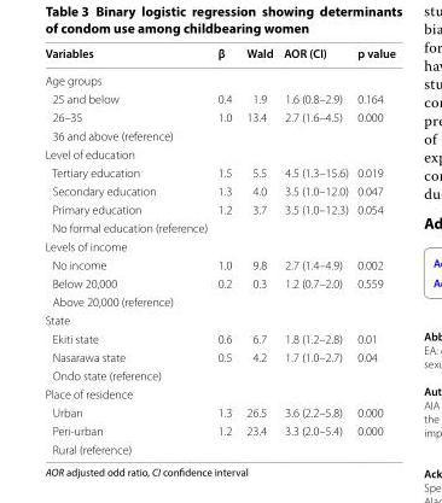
<table><thead><tr><td>Variables</td><td>β</td><td>Wald</td><td>AOR (CI)</td><td>p value</td></tr></thead><tbody><tr><td colspan="5">Age groups</td></tr><tr><td>25 and below</td><td>0.4</td><td>1.9</td><td>1.6 (0.8–2.9)</td><td>0.164</td></tr><tr><td>26–35</td><td>1.0</td><td>13.4</td><td>2.7 (1.6–4.5)</td><td>0.000</td></tr><tr><td colspan="5">36 and above (reference)</td></tr><tr><td colspan="5">Level of education</td></tr><tr><td>Tertiary education</td><td>1.5</td><td>5.5</td><td>4.5 (1.3–15.6)</td><td>0.019</td></tr><tr><td>Secondary education</td><td>1.3</td><td>4.0</td><td>3.5 (1.0–12.0)</td><td>0.047</td></tr><tr><td>Primary education</td><td>1.2</td><td>3.7</td><td>3.5 (1.0–12.3)</td><td>0.054</td></tr><tr><td colspan="5">No formal education (reference)</td></tr><tr><td colspan="5">Levels of income</td></tr><tr><td>No income</td><td>1.0</td><td>9.8</td><td>2.7 (1.4–4.9)</td><td>0.002</td></tr><tr><td>Below 20,000</td><td>0.2</td><td>0.3</td><td>1.2 (0.7–2.0)</td><td>0.559</td></tr><tr><td colspan="5">Above 20,000 (reference)</td></tr><tr><td colspan="5">State</td></tr><tr><td>Ekiti state</td><td>0.6</td><td>6.7</td><td>1.8 (1.2–2.8)</td><td>0.01</td></tr><tr><td>Nasarawa state</td><td>0.5</td><td>4.2</td><td>1.7 (1.0–2.7)</td><td>0.04</td></tr><tr><td colspan="5">Ondo state (reference)</td></tr><tr><td colspan="5">Place of residence</td></tr><tr><td>Urban</td><td>1.3</td><td>26.5</td><td>3.6 (2.2–5.8)</td><td>0.000</td></tr><tr><td>Peri-urban</td><td>1.2</td><td>23.4</td><td>3.3 (2.0–5.4)</td><td>0.000</td></tr><tr><td>Rural (reference)</td><td></td><td></td><td></td><td></td></tr></tbody></table>